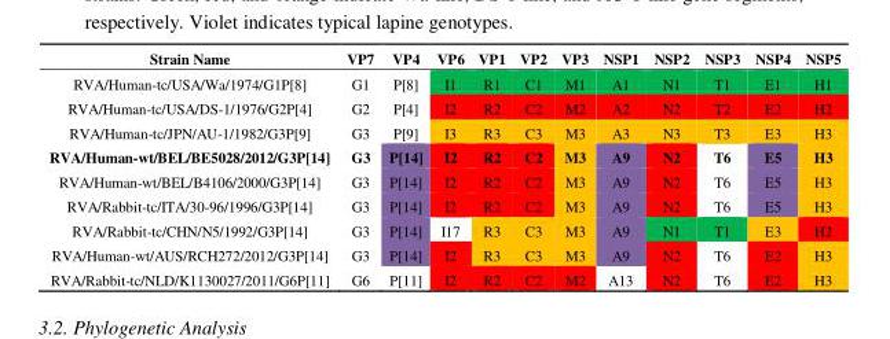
<table><thead><tr><td>Strain Name</td><td>VP7</td><td>VP4</td><td>VP6</td><td>VP1</td><td>VP2</td><td>VP3</td><td>NSP1</td><td>NSP2</td><td>NSP3</td><td>NSP4</td><td>NSP5</td></tr></thead><tbody><tr><td>RVA/Human-tc/USA/Wa/1974/G1P[8]</td><td>G1</td><td>P[8]</td><td>I1</td><td>R1</td><td>C1</td><td>M1</td><td>A1</td><td>N1</td><td>T1</td><td>E1</td><td>H1</td></tr><tr><td>RVA/Human-tc/USA/DS-1/1976/G2P[4]</td><td>G2</td><td>P[4]</td><td>I2</td><td>R2</td><td>C2</td><td>M2</td><td>A2</td><td>N2</td><td>T2</td><td>E2</td><td>H2</td></tr><tr><td>RVA/Human-tc/JPN/AU-1/1982/G3P[9]</td><td>G3</td><td>P[9]</td><td>I3</td><td>R3</td><td>C3</td><td>M3</td><td>A3</td><td>N3</td><td>T3</td><td>E3</td><td>H3</td></tr><tr><td>RVA/Human-wt/BEL/BE5028/2012/G3P[14]</td><td>G3</td><td>P[14]</td><td>I2</td><td>R2</td><td>C2</td><td>M3</td><td>A9</td><td>N2</td><td>T6</td><td>E5</td><td>H3</td></tr><tr><td>RVA/Human-wt/BEL/B4106/2000/G3P[14]</td><td>G3</td><td>P[14]</td><td>I2</td><td>R2</td><td>C2</td><td>M3</td><td>A9</td><td>N2</td><td>T6</td><td>E5</td><td>H3</td></tr><tr><td>RVA/Rabbit-tc/ITA/30-96/1996/G3P[14]</td><td>G3</td><td>P[14]</td><td>I2</td><td>R2</td><td>C2</td><td>M3</td><td>A9</td><td>N2</td><td>T6</td><td>E5</td><td>H3</td></tr><tr><td>RVA/Rabbit-tc/CHN/N5/1992/G3P[14]</td><td>G3</td><td>P[14]</td><td>I17</td><td>R3</td><td>C3</td><td>M3</td><td>A9</td><td>N1</td><td>T1</td><td>E3</td><td>H2</td></tr><tr><td>RVA/Human-wt/AUS/RCH272/2012/G3P[14]</td><td>G3</td><td>P[14]</td><td>I2</td><td>R3</td><td>C3</td><td>M3</td><td>A9</td><td>N2</td><td>T6</td><td>E2</td><td>H3</td></tr><tr><td>RVA/Rabbit-tc/NLD/K1130027/2011/G6P[11]</td><td>G6</td><td>P[11]</td><td>I2</td><td>R2</td><td>C2</td><td>M2</td><td>A13</td><td>N2</td><td>T6</td><td>E2</td><td>H3</td></tr></tbody></table>